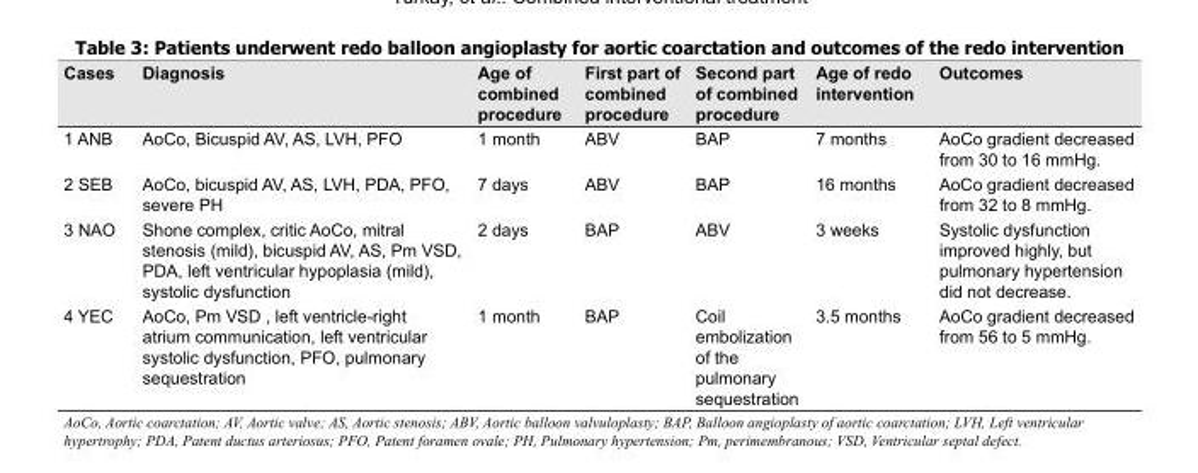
<table><thead><tr><td>Cases</td><td>Diagnosis</td><td>Age of combined procedure</td><td>First part of combined procedure</td><td>Second part of combined procedure</td><td>Age of redo intervention</td><td>Outcomes</td></tr></thead><tbody><tr><td>1 ANB</td><td>AoCo, Bicuspid AV, AS, LVH, PFO</td><td>1 month</td><td>ABV</td><td>BAP</td><td>7 months</td><td>AoCo gradient decreased from 30 to 16 mmHg.</td></tr><tr><td>2 SEB</td><td>AoCo, bicuspid AV, AS, LVH, PDA, PFO, severe PH</td><td>7 days</td><td>ABV</td><td>BAP</td><td>16 months</td><td>AoCo gradient decreased from 32 to 8 mmHg.</td></tr><tr><td>3 NAO</td><td>Shone complex, critic AoCo, mitral stenosis (mild), bicuspid AV, AS, Pm VSD, PDA, left ventricular hypoplasia (mild), systolic dysfunction</td><td>2 days</td><td>BAP</td><td>ABV</td><td>3 weeks</td><td>Systolic dysfunction improved highly, but pulmonary hypertension did not decrease.</td></tr><tr><td>4 YEC</td><td>AoCo, Pm VSD , left ventricle-right atrium communication, left ventricular systolic dysfunction, PFO, pulmonary sequestration</td><td>1 month</td><td>BAP</td><td>Coil embolization of the pulmonary sequestration</td><td>3.5 months</td><td>AoCo gradient decreased from 56 to 5 mmHg.</td></tr></tbody></table>